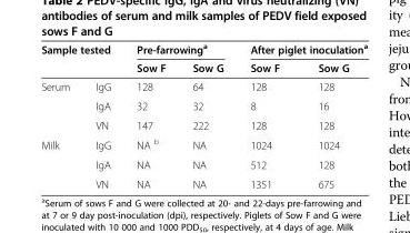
<table><thead><tr><td rowspan="2" colspan="2">Sample tested</td><td colspan="2">Pre-farrowing<sup>a</sup></td><td colspan="2">After piglet inoculation<sup>a</sup></td></tr><tr><td rowspan="2">Sow F 128</td><td rowspan="2">Sow G 64</td><td rowspan="2">Sow F 128</td><td rowspan="2">Sow G 128</td></tr><tr><td>Serum</td><td>IgG</td></tr></thead><tbody><tr><td></td><td>IgA</td><td>32</td><td>32</td><td>8</td><td>16</td></tr><tr><td></td><td>VN</td><td>147</td><td>222</td><td>128</td><td>128</td></tr><tr><td rowspan="3">Milk</td><td>IgG</td><td>NA <sup>b</sup></td><td>NA</td><td>1024</td><td>1024</td></tr><tr><td>IgA</td><td>NA</td><td>NA</td><td>512</td><td>128</td></tr><tr><td>VN</td><td>NA</td><td>NA</td><td>1351</td><td>675</td></tr></tbody></table>